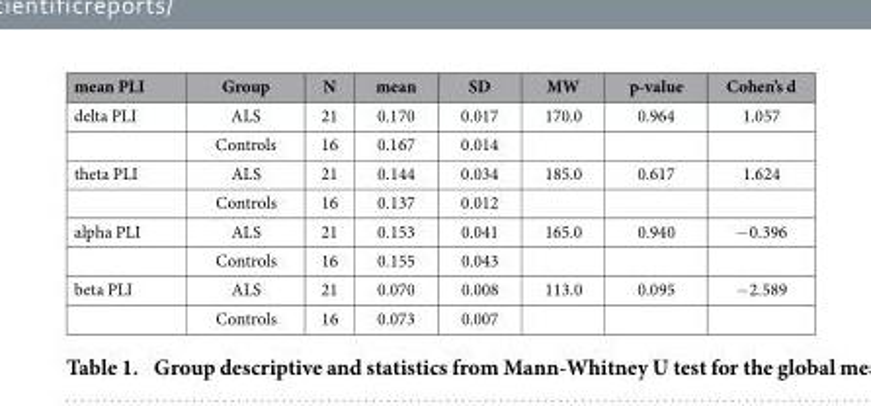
<table><thead><tr><td>mean PLI</td><td>Group</td><td>N</td><td>mean</td><td>SD</td><td>MW</td><td>p-value</td><td>Cohen’s d</td></tr></thead><tbody><tr><td rowspan="2">delta PLI</td><td>ALS</td><td>21</td><td>0.170</td><td>0.017</td><td>170.0</td><td>0.964</td><td>1.057</td></tr><tr><td>Controls</td><td>16</td><td>0.167</td><td>0.014</td><td></td><td></td><td></td></tr><tr><td rowspan="2">theta PLI</td><td>ALS</td><td>21</td><td>0.144</td><td>0.034</td><td>185.0</td><td>0.617</td><td>1.624</td></tr><tr><td>Controls</td><td>16</td><td>0.137</td><td>0.012</td><td></td><td></td><td></td></tr><tr><td rowspan="2">alpha PLI</td><td>ALS</td><td>21</td><td>0.153</td><td>0.041</td><td>165.0</td><td>0.940</td><td>− 0.396</td></tr><tr><td>Controls</td><td>16</td><td>0.155</td><td>0.043</td><td></td><td></td><td></td></tr><tr><td rowspan="2">beta PLI</td><td>ALS</td><td>21</td><td>0.070</td><td>0.008</td><td>113.0</td><td>0.095</td><td>− 2.589</td></tr><tr><td>Controls</td><td>16</td><td>0.073</td><td>0.007</td><td></td><td></td><td></td></tr></tbody></table>